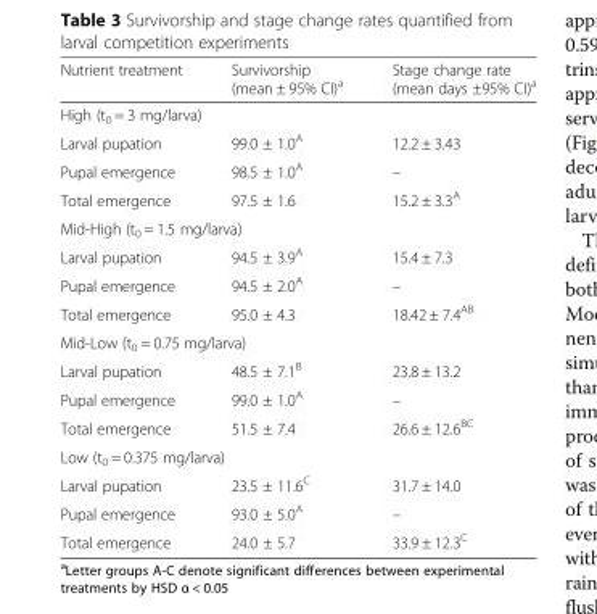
<table><thead><tr><td>Nutrient treatment</td><td>Survivorship (mean ± 95% CI)<sup>a</sup></td><td>Stage change rate (mean days ±95% CI)<sup>a</sup></td></tr></thead><tbody><tr><td colspan="3">High (t<sub>0</sub> = 3 mg/larva)</td></tr><tr><td>Larval pupation</td><td>99.0 ± 1.0<sup>A</sup></td><td>12.2 ± 3.43</td></tr><tr><td>Pupal emergence</td><td>98.5 ± 1.0<sup>A</sup></td><td>–</td></tr><tr><td>Total emergence</td><td>97.5 ± 1.6</td><td>15.2 ± 3.3<sup>A</sup></td></tr><tr><td colspan="3">Mid-High (t<sub>0</sub> = 1.5 mg/larva)</td></tr><tr><td>Larval pupation</td><td>94.5 ± 3.9<sup>A</sup></td><td>15.4 ± 7.3</td></tr><tr><td>Pupal emergence</td><td>94.5 ± 2.0<sup>A</sup></td><td>–</td></tr><tr><td>Total emergence</td><td>95.0 ± 4.3</td><td>18.42 ± 7.4<sup>AB</sup></td></tr><tr><td colspan="3">Mid-Low (t<sub>0</sub> = 0.75 mg/larva)</td></tr><tr><td>Larval pupation</td><td>48.5 ± 7.1<sup>B</sup></td><td>23.8 ± 13.2</td></tr><tr><td>Pupal emergence</td><td>99.0 ± 1.0<sup>A</sup></td><td>–</td></tr><tr><td>Total emergence</td><td>51.5 ± 7.4</td><td>26.6 ± 12.6<sup>BC</sup></td></tr><tr><td colspan="3">Low (t<sub>0</sub> = 0.375 mg/larva)</td></tr><tr><td>Larval pupation</td><td>23.5 ± 11.6<sup>C</sup></td><td>31.7 ± 14.0</td></tr><tr><td>Pupal emergence</td><td>93.0 ± 5.0<sup>A</sup></td><td>–</td></tr><tr><td>Total emergence</td><td>24.0 ± 5.7</td><td>33.9 ± 12.3<sup>C</sup></td></tr></tbody></table>